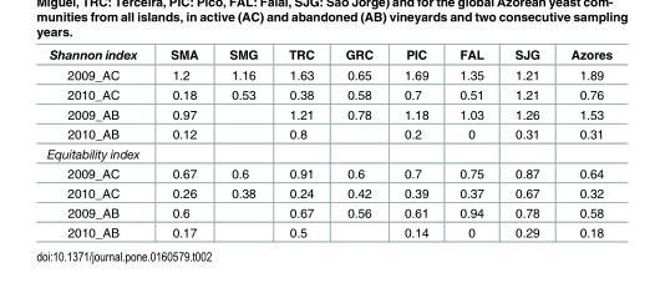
<table><thead><tr><td>Shannon index</td><td>SMA</td><td>SMG</td><td>TRC</td><td>GRC</td><td>PIC</td><td>FAL</td><td>SJG</td><td>Azores</td></tr></thead><tbody><tr><td>2009_AC</td><td>1.2</td><td>1.16</td><td>1.63</td><td>0.65</td><td>1.69</td><td>1.35</td><td>1.21</td><td>1.89</td></tr><tr><td>2010_AC</td><td>0.18</td><td>0.53</td><td>0.38</td><td>0.58</td><td>0.7</td><td>0.51</td><td>1.21</td><td>0.76</td></tr><tr><td>2009_AB</td><td>0.97</td><td></td><td>1.21</td><td>0.78</td><td>1.18</td><td>1.03</td><td>1.26</td><td>1.53</td></tr><tr><td>2010_AB</td><td>0.12</td><td></td><td>0.8</td><td></td><td>0.2</td><td>0</td><td>0.31</td><td>0.31</td></tr><tr><td colspan="9">Equitability index</td></tr><tr><td>2009_AC</td><td>0.67</td><td>0.6</td><td>0.91</td><td>0.6</td><td>0.7</td><td>0.75</td><td>0.87</td><td>0.64</td></tr><tr><td>2010_AC</td><td>0.26</td><td>0.38</td><td>0.24</td><td>0.42</td><td>0.39</td><td>0.37</td><td>0.67</td><td>0.32</td></tr><tr><td>2009_AB</td><td>0.6</td><td></td><td>0.67</td><td>0.56</td><td>0.61</td><td>0.94</td><td>0.78</td><td>0.58</td></tr><tr><td>2010_AB</td><td>0.17</td><td></td><td>0.5</td><td></td><td>0.14</td><td>0</td><td>0.29</td><td>0.18</td></tr></tbody></table>